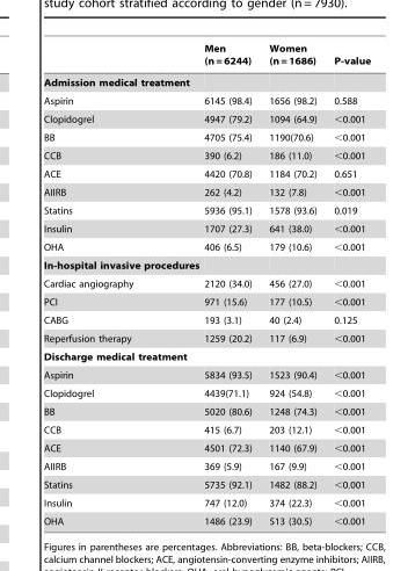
<table><thead><tr><td></td><td>Men (n = 6244)</td><td>Women (n = 1686)</td><td>P-value</td></tr></thead><tbody><tr><td colspan="4">Admission medical treatment</td></tr><tr><td>Aspirin</td><td>6145 (98.4)</td><td>1656 (98.2)</td><td>0.588</td></tr><tr><td>Clopidogrel</td><td>4947 (79.2)</td><td>1094 (64.9)</td><td>&lt;0.001</td></tr><tr><td>BB</td><td>4705 (75.4)</td><td>1190(70.6)</td><td>&lt;0.001</td></tr><tr><td>CCB</td><td>390 (6.2)</td><td>186 (11.0)</td><td>&lt;0.001</td></tr><tr><td>ACE</td><td>4420 (70.8)</td><td>1184 (70.2)</td><td>0.651</td></tr><tr><td>AIIRB</td><td>262 (4.2)</td><td>132 (7.8)</td><td>&lt;0.001</td></tr><tr><td>Statins</td><td>5936 (95.1)</td><td>1578 (93.6)</td><td>0.019</td></tr><tr><td>Insulin</td><td>1707 (27.3)</td><td>641 (38.0)</td><td>&lt;0.001</td></tr><tr><td>OHA</td><td>406 (6.5)</td><td>179 (10.6)</td><td>&lt;0.001</td></tr><tr><td colspan="4">In-hospital invasive procedures</td></tr><tr><td>Cardiac angiography</td><td>2120 (34.0)</td><td>456 (27.0)</td><td>&lt;0.001</td></tr><tr><td>PCI</td><td>971 (15.6)</td><td>177 (10.5)</td><td>&lt;0.001</td></tr><tr><td>CABG</td><td>193 (3.1)</td><td>40 (2.4)</td><td>0.125</td></tr><tr><td>Reperfusion therapy</td><td>1259 (20.2)</td><td>117 (6.9)</td><td>&lt;0.001</td></tr><tr><td colspan="4">Discharge medical treatment</td></tr><tr><td>Aspirin</td><td>5834 (93.5)</td><td>1523 (90.4)</td><td>&lt;0.001</td></tr><tr><td>Clopidogrel</td><td>4439(71.1)</td><td>924 (54.8)</td><td>&lt;0.001</td></tr><tr><td>BB</td><td>5020 (80.6)</td><td>1248 (74.3)</td><td>&lt;0.001</td></tr><tr><td>CCB</td><td>415 (6.7)</td><td>203 (12.1)</td><td>&lt;0.001</td></tr><tr><td>ACE</td><td>4501 (72.3)</td><td>1140 (67.9)</td><td>&lt;0.001</td></tr><tr><td>AIIRB</td><td>369 (5.9)</td><td>167 (9.9)</td><td>&lt;0.001</td></tr><tr><td>Statins</td><td>5735 (92.1)</td><td>1482 (88.2)</td><td>&lt;0.001</td></tr><tr><td>Insulin</td><td>747 (12.0)</td><td>374 (22.3)</td><td>&lt;0.001</td></tr><tr><td>OHA</td><td>1486 (23.9)</td><td>513 (30.5)</td><td>&lt;0.001</td></tr></tbody></table>